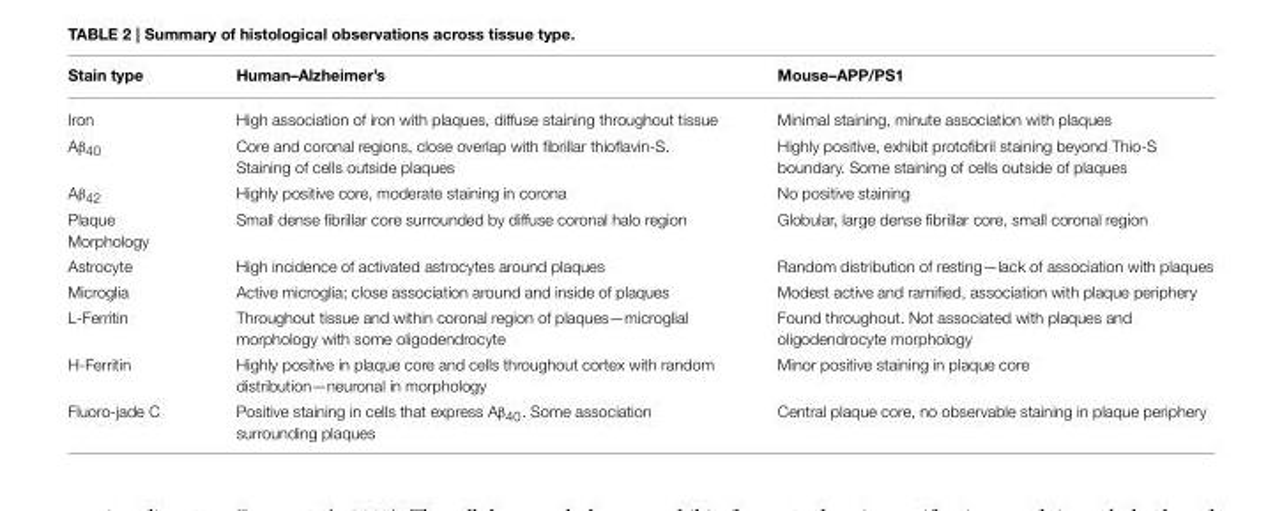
<table><thead><tr><td>Stain type</td><td>Human–Alzheimer’s</td><td>Mouse–APP/PS1</td></tr></thead><tbody><tr><td>Iron</td><td>High association of iron with plaques, diffuse staining throughout tissue</td><td>Minimal staining, minute association with plaques</td></tr><tr><td>Aβ<sub>40</sub></td><td>Core and coronal regions, close overlap with fibrillar thioflavin-S. Staining of cells outside plaques</td><td>Highly positive, exhibit protofibril staining beyond Thio-S boundary. Some staining of cells outside of plaques</td></tr><tr><td>Aβ<sub>42</sub></td><td>Highly positive core, moderate staining in corona</td><td>No positive staining</td></tr><tr><td>Plaque Morphology</td><td>Small dense fibrillar core surrounded by diffuse coronal halo region</td><td>Globular, large dense fibrillar core, small coronal region</td></tr><tr><td>Astrocyte</td><td>High incidence of activated astrocytes around plaques</td><td>Random distribution of resting—lack of association with plaques</td></tr><tr><td>Microglia</td><td>Active microglia; close association around and inside of plaques</td><td>Modest active and ramified, association with plaque periphery</td></tr><tr><td>L-Ferritin</td><td>Throughout tissue and within coronal region of plaques—microglial morphology with some oligodendrocyte</td><td>Found throughout. Not associated with plaques and oligodendrocyte morphology</td></tr><tr><td>H-Ferritin</td><td>Highly positive in plaque core and cells throughout cortex with random distribution—neuronal in morphology</td><td>Minor positive staining in plaque core</td></tr><tr><td>Fluoro-jade C</td><td>Positive staining in cells that express Aβ<sub>40</sub>. Some association surrounding plaques</td><td>Central plaque core, no observable staining in plaque periphery</td></tr></tbody></table>